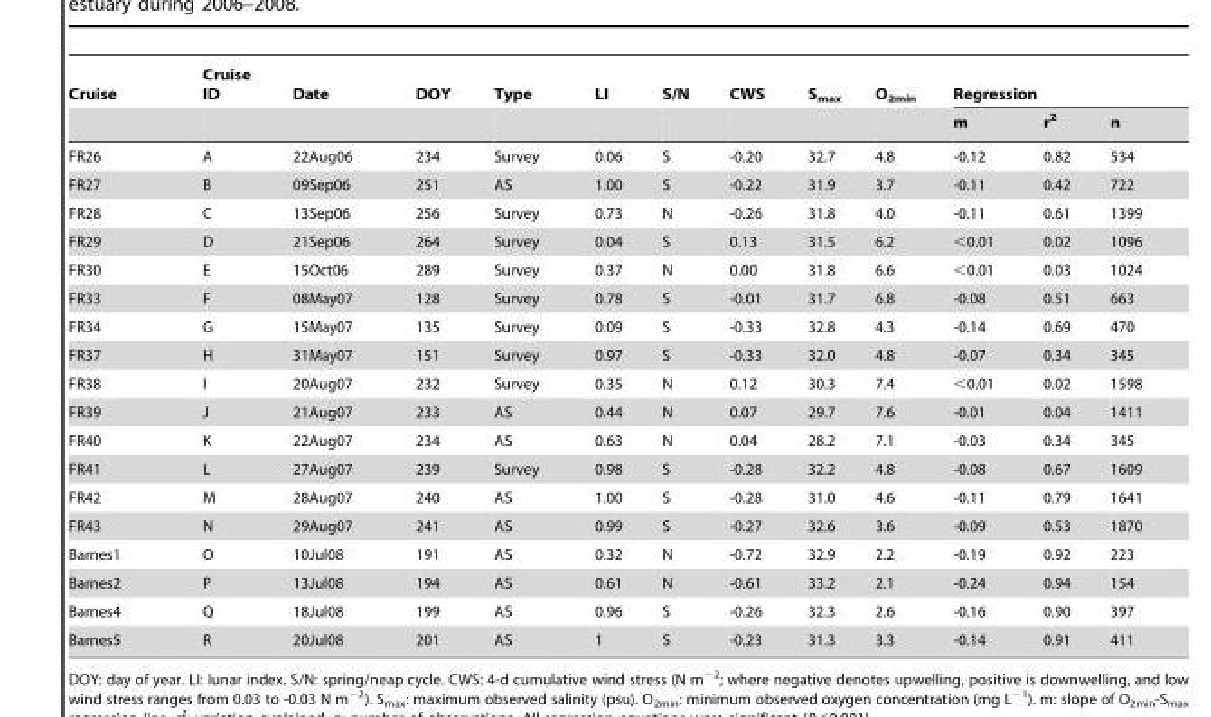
<table><thead><tr><td rowspan="2">Cruise</td><td rowspan="2">Cruise ID</td><td rowspan="2">Date</td><td rowspan="2">DOY</td><td rowspan="2">Type</td><td rowspan="2">LI</td><td rowspan="2">S/N</td><td rowspan="2">CWS</td><td rowspan="2">S<sub>max</sub></td><td rowspan="2">O<sub>2min</sub></td><td colspan="3">Regression</td></tr><tr><td>m</td><td>r<sup>2</sup></td><td>n</td></tr></thead><tbody><tr><td>FR26</td><td>A</td><td>22Aug06</td><td>234</td><td>Survey</td><td>0.06</td><td>S</td><td>-0.20</td><td>32.7</td><td>4.8</td><td>-0.12</td><td>0.82</td><td>534</td></tr><tr><td>FR27</td><td>B</td><td>09Sep06</td><td>251</td><td>AS</td><td>1.00</td><td>S</td><td>-0.22</td><td>31.9</td><td>3.7</td><td>-0.11</td><td>0.42</td><td>722</td></tr><tr><td>FR28</td><td>C</td><td>13Sep06</td><td>256</td><td>Survey</td><td>0.73</td><td>N</td><td>-0.26</td><td>31.8</td><td>4.0</td><td>-0.11</td><td>0.61</td><td>1399</td></tr><tr><td>FR29</td><td>D</td><td>21Sep06</td><td>264</td><td>Survey</td><td>0.04</td><td>S</td><td>0.13</td><td>31.5</td><td>6.2</td><td>&lt;0.01</td><td>0.02</td><td>1096</td></tr><tr><td>FR30</td><td>E</td><td>15Oct06</td><td>289</td><td>Survey</td><td>0.37</td><td>N</td><td>0.00</td><td>31.8</td><td>6.6</td><td>&lt;0.01</td><td>0.03</td><td>1024</td></tr><tr><td>FR33</td><td>F</td><td>08May07</td><td>128</td><td>Survey</td><td>0.78</td><td>S</td><td>-0.01</td><td>31.7</td><td>6.8</td><td>-0.08</td><td>0.51</td><td>663</td></tr><tr><td>FR34</td><td>G</td><td>15May07</td><td>135</td><td>Survey</td><td>0.09</td><td>S</td><td>-0.33</td><td>32.8</td><td>4.3</td><td>-0.14</td><td>0.69</td><td>470</td></tr><tr><td>FR37</td><td>H</td><td>31May07</td><td>151</td><td>Survey</td><td>0.97</td><td>S</td><td>-0.33</td><td>32.0</td><td>4.8</td><td>-0.07</td><td>0.34</td><td>345</td></tr><tr><td>FR38</td><td>I</td><td>20Aug07</td><td>232</td><td>Survey</td><td>0.35</td><td>N</td><td>0.12</td><td>30.3</td><td>7.4</td><td>&lt;0.01</td><td>0.02</td><td>1598</td></tr><tr><td>FR39</td><td>J</td><td>21Aug07</td><td>233</td><td>AS</td><td>0.44</td><td>N</td><td>0.07</td><td>29.7</td><td>7.6</td><td>-0.01</td><td>0.04</td><td>1411</td></tr><tr><td>FR40</td><td>K</td><td>22Aug07</td><td>234</td><td>AS</td><td>0.63</td><td>N</td><td>0.04</td><td>28.2</td><td>7.1</td><td>-0.03</td><td>0.34</td><td>345</td></tr><tr><td>FR41</td><td>L</td><td>27Aug07</td><td>239</td><td>Survey</td><td>0.98</td><td>S</td><td>-0.28</td><td>32.2</td><td>4.8</td><td>-0.08</td><td>0.67</td><td>1609</td></tr><tr><td>FR42</td><td>M</td><td>28Aug07</td><td>240</td><td>AS</td><td>1.00</td><td>S</td><td>-0.28</td><td>31.0</td><td>4.6</td><td>-0.11</td><td>0.79</td><td>1641</td></tr><tr><td>FR43</td><td>N</td><td>29Aug07</td><td>241</td><td>AS</td><td>0.99</td><td>S</td><td>-0.27</td><td>32.6</td><td>3.6</td><td>-0.09</td><td>0.53</td><td>1870</td></tr><tr><td>Barnes1</td><td>O</td><td>10Jul08</td><td>191</td><td>AS</td><td>0.32</td><td>N</td><td>-0.72</td><td>32.9</td><td>2.2</td><td>-0.19</td><td>0.92</td><td>223</td></tr><tr><td>Barnes2</td><td>P</td><td>13Jul08</td><td>194</td><td>AS</td><td>0.61</td><td>N</td><td>-0.61</td><td>33.2</td><td>2.1</td><td>-0.24</td><td>0.94</td><td>154</td></tr><tr><td>Barnes4</td><td>Q</td><td>18Jul08</td><td>199</td><td>AS</td><td>0.96</td><td>S</td><td>-0.26</td><td>32.3</td><td>2.6</td><td>-0.16</td><td>0.90</td><td>397</td></tr><tr><td>Barnes5</td><td>R</td><td>20Jul08</td><td>201</td><td>AS</td><td>1</td><td>S</td><td>-0.23</td><td>31.3</td><td>3.3</td><td>-0.14</td><td>0.91</td><td>411</td></tr></tbody></table>